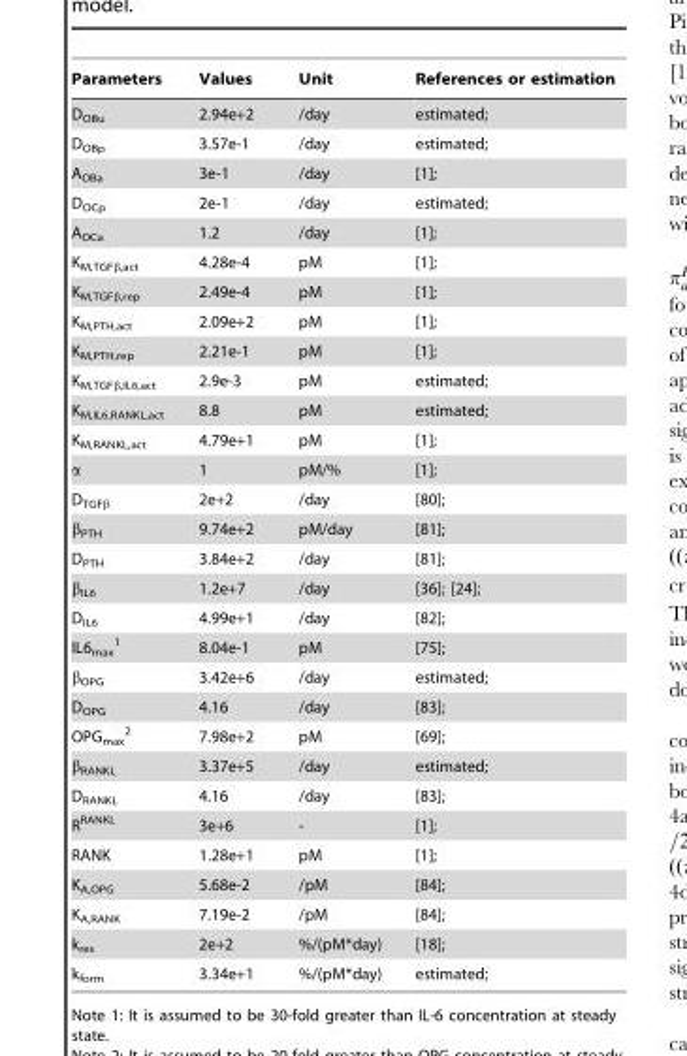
<table><thead><tr><td>Parameters</td><td>Values</td><td>Unit</td><td>References or estimation</td></tr></thead><tbody><tr><td>D<sub>OBu</sub></td><td>2.94e+2</td><td>/day</td><td>estimated;</td></tr><tr><td>D<sub>OBp</sub></td><td>3.57e-1</td><td>/day</td><td>estimated;</td></tr><tr><td>A<sub>OBa</sub></td><td>3e-1</td><td>/day</td><td>[1];</td></tr><tr><td>D<sub>OCp</sub></td><td>2e-1</td><td>/day</td><td>estimated;</td></tr><tr><td>A<sub>OCa</sub></td><td>1.2</td><td>/day</td><td>[1];</td></tr><tr><td>K<sub>M,TGFβ,act</sub></td><td>4.28e-4</td><td>pM</td><td>[1];</td></tr><tr><td>K<sub>M,TGFβ,rep</sub></td><td>2.49e-4</td><td>pM</td><td>[1];</td></tr><tr><td>K<sub>M,PTH,act</sub></td><td>2.09e+2</td><td>pM</td><td>[1];</td></tr><tr><td>K<sub>M,PTH,rep</sub></td><td>2.21e-1</td><td>pM</td><td>[1];</td></tr><tr><td>K<sub>M,TGFβ,IL6,act</sub></td><td>2.9e-3</td><td>pM</td><td>estimated;</td></tr><tr><td>K<sub>M,IL6,RANKL,act</sub></td><td>8.8</td><td>pM</td><td>estimated;</td></tr><tr><td>K<sub>M,RANKL,act</sub></td><td>4.79e+1</td><td>pM</td><td>[1];</td></tr><tr><td>α</td><td>1</td><td>pM/%</td><td>[1];</td></tr><tr><td>D<sub>TGFβ</sub></td><td>2e+2</td><td>/day</td><td>[80];</td></tr><tr><td>β<sub>PTH</sub></td><td>9.74e+2</td><td>pM/day</td><td>[81];</td></tr><tr><td>D<sub>PTH</sub></td><td>3.84e+2</td><td>/day</td><td>[81];</td></tr><tr><td>β<sub>IL6</sub></td><td>1.2e+7</td><td>/day</td><td>[36]; [24];</td></tr><tr><td>D<sub>IL6</sub></td><td>4.99e+1</td><td>/day</td><td>[82];</td></tr><tr><td>IL6<sub>max</sub> <sup>1</sup></td><td>8.04e-1</td><td>pM</td><td>[75];</td></tr><tr><td>β<sub>OPG</sub></td><td>3.42e+6</td><td>/day</td><td>estimated;</td></tr><tr><td>D<sub>OPG</sub></td><td>4.16</td><td>/day</td><td>[83];</td></tr><tr><td>OPG<sub>max</sub> <sup>2</sup></td><td>7.98e+2</td><td>pM</td><td>[69];</td></tr><tr><td>β<sub>RANKL</sub></td><td>3.37e+5</td><td>/day</td><td>estimated;</td></tr><tr><td>D<sub>RANKL</sub></td><td>4.16</td><td>/day</td><td>[83];</td></tr><tr><td>R<sup>RANKL</sup></td><td>3e+6</td><td>-</td><td>[1];</td></tr><tr><td>RANK</td><td>1.28e+1</td><td>pM</td><td>[1];</td></tr><tr><td>K<sub>A,OPG</sub></td><td>5.68e-2</td><td>/pM</td><td>[84];</td></tr><tr><td>K<sub>A,RANK</sub></td><td>7.19e-2</td><td>/pM</td><td>[84];</td></tr><tr><td>k<sub>res</sub></td><td>2e+2</td><td>%/(pM*day)</td><td>[18];</td></tr><tr><td>k<sub>form</sub></td><td>3.34e+1</td><td>%/(pM*day)</td><td>estimated;</td></tr></tbody></table>